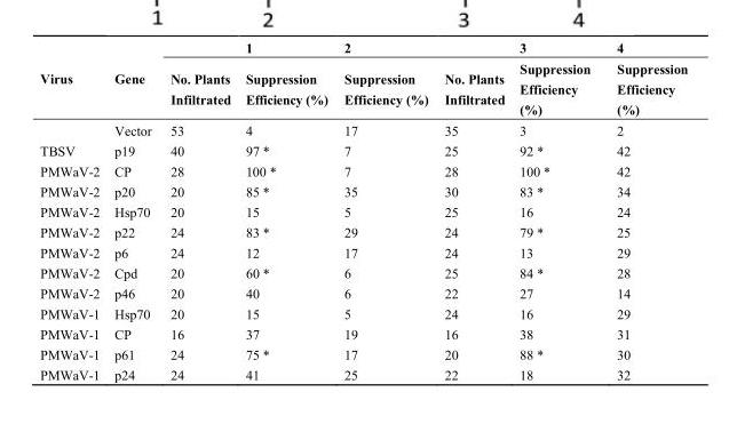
<table><thead><tr><td rowspan="2">Virus</td><td rowspan="2">Gene</td><td rowspan="2">No. Plants Infiltrated</td><td rowspan="2">1 Suppression Efficiency (%)</td><td rowspan="2">2 Suppression Efficiency (%)</td><td rowspan="2">No. Plants Infiltrated</td><td rowspan="2">3 Suppression Efficiency (%)</td><td rowspan="2">4 Suppression Efficiency (%)</td></tr><tr></tr></thead><tbody><tr><td></td><td>Vector</td><td>53</td><td>4</td><td>17</td><td>35</td><td>3</td><td>2</td></tr><tr><td>TBSV</td><td>p19</td><td>40</td><td>97 *</td><td>7</td><td>25</td><td>92 *</td><td>42</td></tr><tr><td>PMWaV-2</td><td>CP</td><td>28</td><td>100 *</td><td>7</td><td>28</td><td>100 *</td><td>42</td></tr><tr><td>PMWaV-2</td><td>p20</td><td>20</td><td>85 *</td><td>35</td><td>30</td><td>83 *</td><td>34</td></tr><tr><td>PMWaV-2</td><td>Hsp70</td><td>20</td><td>15</td><td>5</td><td>25</td><td>16</td><td>24</td></tr><tr><td>PMWaV-2</td><td>p22</td><td>24</td><td>83 *</td><td>29</td><td>24</td><td>79 *</td><td>25</td></tr><tr><td>PMWaV-2</td><td>p6</td><td>24</td><td>12</td><td>17</td><td>24</td><td>13</td><td>29</td></tr><tr><td>PMWaV-2</td><td>Cpd</td><td>20</td><td>60 *</td><td>6</td><td>25</td><td>84 *</td><td>28</td></tr><tr><td>PMWaV-2</td><td>p46</td><td>20</td><td>40</td><td>6</td><td>22</td><td>27</td><td>14</td></tr><tr><td>PMWaV-1</td><td>Hsp70</td><td>20</td><td>15</td><td>5</td><td>24</td><td>16</td><td>29</td></tr><tr><td>PMWaV-1</td><td>CP</td><td>16</td><td>37</td><td>19</td><td>16</td><td>38</td><td>31</td></tr><tr><td>PMWaV-1</td><td>p61</td><td>24</td><td>75 *</td><td>17</td><td>20</td><td>88 *</td><td>30</td></tr><tr><td>PMWaV-1</td><td>p24</td><td>24</td><td>41</td><td>25</td><td>22</td><td>18</td><td>32</td></tr></tbody></table>